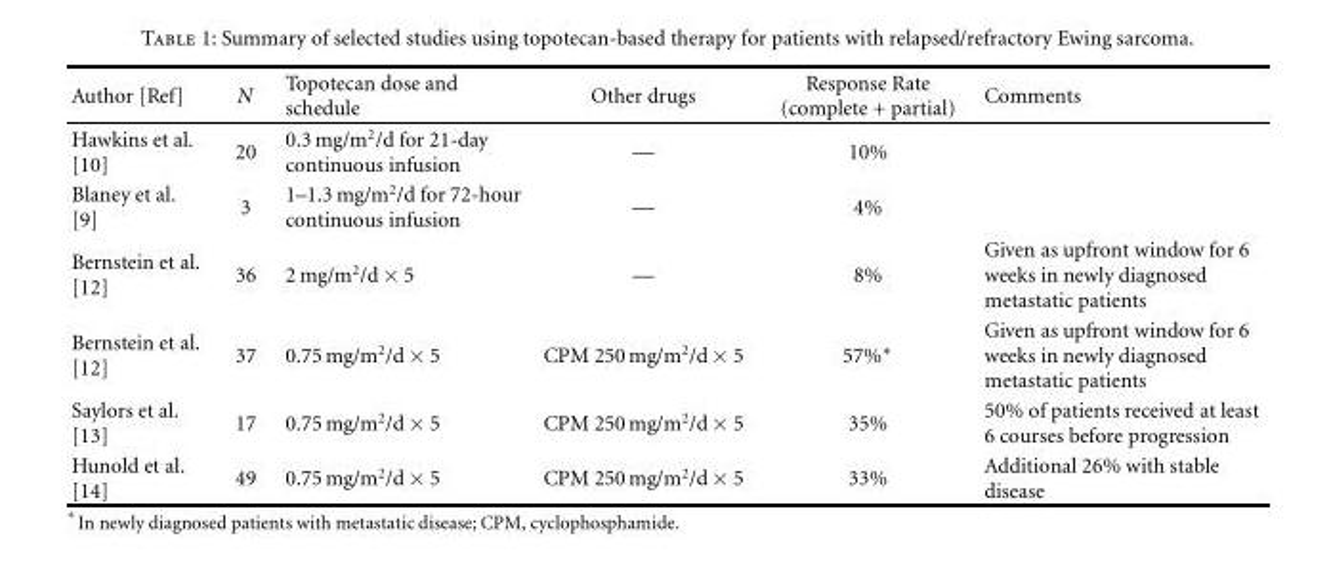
<table><thead><tr><td>Author [Ref]</td><td>N</td><td>Topotecan dose and schedule</td><td>Other drugs</td><td>Response Rate (complete + partial)</td><td>Comments</td></tr></thead><tbody><tr><td>Hawkins et al. [10]</td><td>20</td><td>0.3 mg/m<sup>2</sup>/d for 21-day continuous infusion</td><td>—</td><td>10%</td><td></td></tr><tr><td>Blaney et al. [9]</td><td>3</td><td>1–1.3 mg/m<sup>2</sup>/d for 72-hour continuous infusion</td><td>—</td><td>4%</td><td></td></tr><tr><td>Bernstein et al. [12]</td><td>36</td><td>2 mg/m<sup>2</sup>/d × 5</td><td>—</td><td>8%</td><td>Given as upfront window for 6 weeks in newly diagnosed metastatic patients</td></tr><tr><td>Bernstein et al. [12]</td><td>37</td><td>0.75 mg/m<sup>2</sup>/d × 5</td><td>CPM 250 mg/m<sup>2</sup>/d × 5</td><td>57%∗</td><td>Given as upfront window for 6 weeks in newly diagnosed metastatic patients</td></tr><tr><td>Saylors et al. [13]</td><td>17</td><td>0.75 mg/m<sup>2</sup>/d × 5</td><td>CPM 250 mg/m<sup>2</sup>/d × 5</td><td>35%</td><td>50% of patients received at least 6 courses before progression</td></tr><tr><td>Hunold et al. [14]</td><td>49</td><td>0.75 mg/m<sup>2</sup>/d × 5</td><td>CPM 250 mg/m<sup>2</sup>/d × 5</td><td>33%</td><td>Additional 26% with stable disease</td></tr></tbody></table>